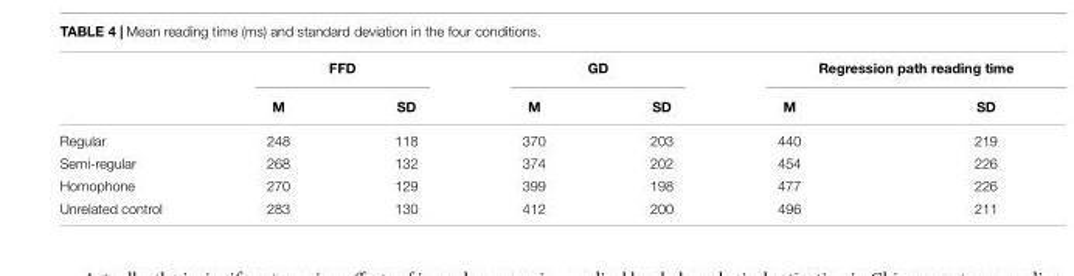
<table><thead><tr><td rowspan="2"></td><td colspan="2">FFD</td><td colspan="2">GD</td><td colspan="2">Regression path reading time</td></tr><tr><td>M</td><td>SD</td><td>M</td><td>SD</td><td>M</td><td>SD</td></tr></thead><tbody><tr><td>Regular</td><td>248</td><td>118</td><td>370</td><td>203</td><td>440</td><td>219</td></tr><tr><td>Semi-regular</td><td>268</td><td>132</td><td>374</td><td>202</td><td>454</td><td>226</td></tr><tr><td>Homophone</td><td>270</td><td>129</td><td>399</td><td>198</td><td>477</td><td>226</td></tr><tr><td>Unrelated control</td><td>283</td><td>130</td><td>412</td><td>200</td><td>496</td><td>211</td></tr></tbody></table>